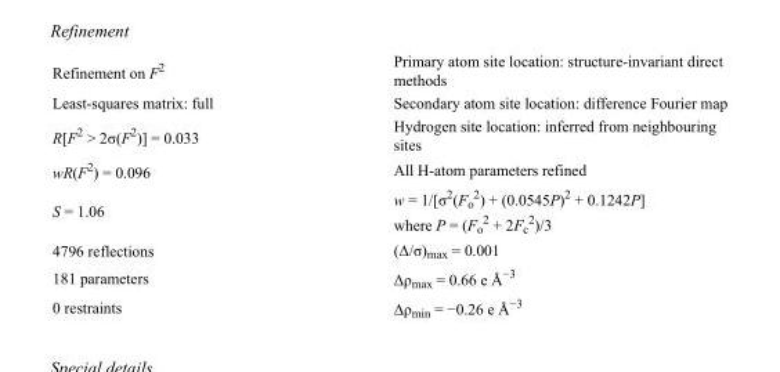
<table><tbody><tr><td>Refinement on F<sup>2</sup></td><td>Primary atom site location: structure-invariant direct methods</td></tr><tr><td>Least-squares matrix: full</td><td>Secondary atom site location: difference Fourier map</td></tr><tr><td>R[F<sup>2</sup> &gt; 2σ(F<sup>2</sup>)] = 0.033</td><td>Hydrogen site location: inferred from neighbouring sites</td></tr><tr><td>wR(F<sup>2</sup>) = 0.096</td><td>All H-atom parameters refined</td></tr><tr><td>S = 1.06</td><td>w = 1/[σ<sup>2</sup>(F<sub>o</sub> <sup>2</sup>) + (0.0545P)<sup>2</sup> + 0.1242P] where P = (F<sub>o</sub> <sup>2</sup> + 2F<sub>c</sub> <sup>2</sup>)/3</td></tr><tr><td>4796 reflections</td><td>(Δ/σ)<sub>max</sub> = 0.001</td></tr><tr><td>181 parameters</td><td>Δρ<sub>max</sub> = 0.66 e Å<sup>−3</sup></td></tr><tr><td>0 restraints</td><td>Δρ<sub>min</sub> = −0.26 e Å<sup>−3</sup></td></tr></tbody></table>